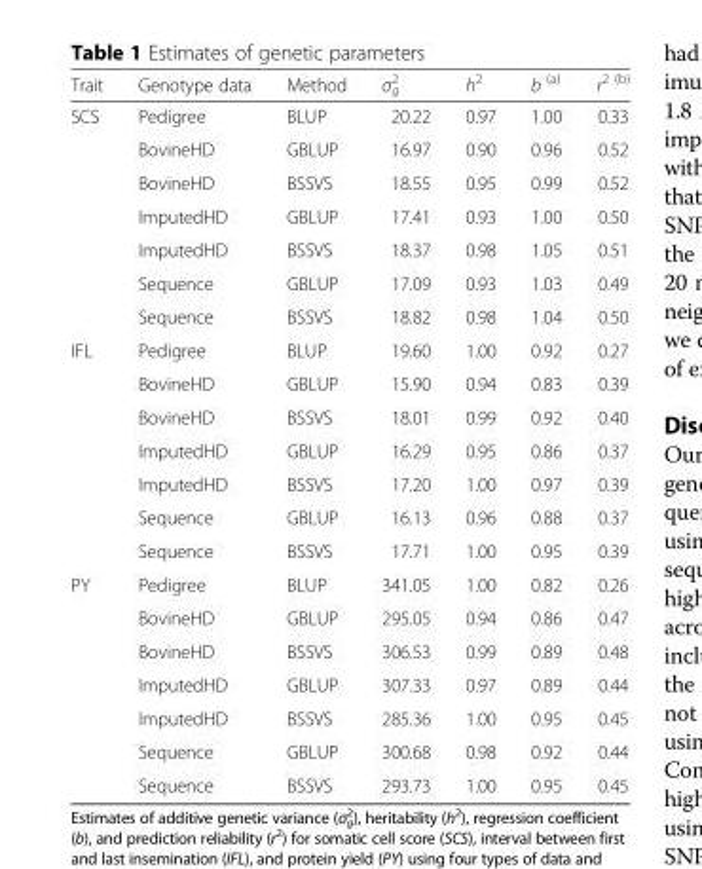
<table><thead><tr><td>Trait</td><td>Genotype data</td><td>Method</td><td>σ<sub>g</sub> <sup>2</sup></td><td>h<sup>2</sup></td><td>b <sup>(a)</sup></td><td>r<sup>2 (b)</sup></td></tr></thead><tbody><tr><td rowspan="7">SCS</td><td>Pedigree</td><td>BLUP</td><td>20.22</td><td>0.97</td><td>1.00</td><td>0.33</td></tr><tr><td>BovineHD</td><td>GBLUP</td><td>16.97</td><td>0.90</td><td>0.96</td><td>0.52</td></tr><tr><td>BovineHD</td><td>BSSVS</td><td>18.55</td><td>0.95</td><td>0.99</td><td>0.52</td></tr><tr><td>ImputedHD</td><td>GBLUP</td><td>17.41</td><td>0.93</td><td>1.00</td><td>0.50</td></tr><tr><td>ImputedHD</td><td>BSSVS</td><td>18.37</td><td>0.98</td><td>1.05</td><td>0.51</td></tr><tr><td>Sequence</td><td>GBLUP</td><td>17.09</td><td>0.93</td><td>1.03</td><td>0.49</td></tr><tr><td>Sequence</td><td>BSSVS</td><td>18.82</td><td>0.98</td><td>1.04</td><td>0.50</td></tr><tr><td rowspan="7">IFL</td><td>Pedigree</td><td>BLUP</td><td>19.60</td><td>1.00</td><td>0.92</td><td>0.27</td></tr><tr><td>BovineHD</td><td>GBLUP</td><td>15.90</td><td>0.94</td><td>0.83</td><td>0.39</td></tr><tr><td>BovineHD</td><td>BSSVS</td><td>18.01</td><td>0.99</td><td>0.92</td><td>0.40</td></tr><tr><td>ImputedHD</td><td>GBLUP</td><td>16.29</td><td>0.95</td><td>0.86</td><td>0.37</td></tr><tr><td>ImputedHD</td><td>BSSVS</td><td>17.20</td><td>1.00</td><td>0.97</td><td>0.39</td></tr><tr><td>Sequence</td><td>GBLUP</td><td>16.13</td><td>0.96</td><td>0.88</td><td>0.37</td></tr><tr><td>Sequence</td><td>BSSVS</td><td>17.71</td><td>1.00</td><td>0.95</td><td>0.39</td></tr><tr><td rowspan="7">PY</td><td>Pedigree</td><td>BLUP</td><td>341.05</td><td>1.00</td><td>0.82</td><td>0.26</td></tr><tr><td>BovineHD</td><td>GBLUP</td><td>295.05</td><td>0.94</td><td>0.86</td><td>0.47</td></tr><tr><td>BovineHD</td><td>BSSVS</td><td>306.53</td><td>0.99</td><td>0.89</td><td>0.48</td></tr><tr><td>ImputedHD</td><td>GBLUP</td><td>307.33</td><td>0.97</td><td>0.89</td><td>0.44</td></tr><tr><td>ImputedHD</td><td>BSSVS</td><td>285.36</td><td>1.00</td><td>0.95</td><td>0.45</td></tr><tr><td>Sequence</td><td>GBLUP</td><td>300.68</td><td>0.98</td><td>0.92</td><td>0.44</td></tr><tr><td>Sequence</td><td>BSSVS</td><td>293.73</td><td>1.00</td><td>0.95</td><td>0.45</td></tr></tbody></table>